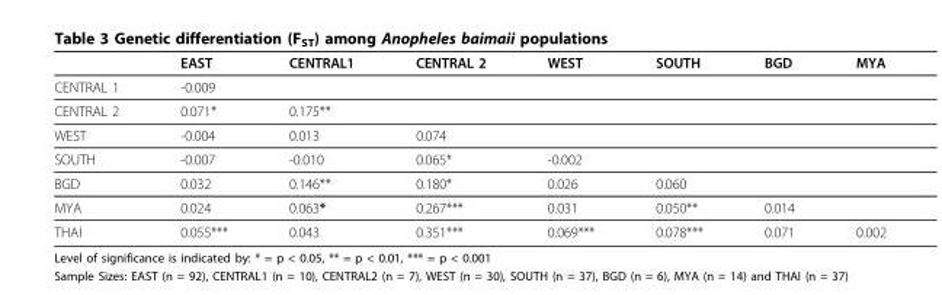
<table><thead><tr><td></td><td>EAST</td><td>CENTRAL1</td><td>CENTRAL 2</td><td>WEST</td><td>SOUTH</td><td>BGD</td><td>MYA</td></tr></thead><tbody><tr><td>CENTRAL 1</td><td>-0.009</td><td></td><td></td><td></td><td></td><td></td><td></td></tr><tr><td>CENTRAL 2</td><td>0.071*</td><td>0.175**</td><td></td><td></td><td></td><td></td><td></td></tr><tr><td>WEST</td><td>-0.004</td><td>0.013</td><td>0.074</td><td></td><td></td><td></td><td></td></tr><tr><td>SOUTH</td><td>-0.007</td><td>-0.010</td><td>0.065*</td><td>-0.002</td><td></td><td></td><td></td></tr><tr><td>BGD</td><td>0.032</td><td>0.146**</td><td>0.180*</td><td>0.026</td><td>0.060</td><td></td><td></td></tr><tr><td>MYA</td><td>0.024</td><td>0.063*</td><td>0.267***</td><td>0.031</td><td>0.050**</td><td>0.014</td><td></td></tr><tr><td>THAI</td><td>0.055***</td><td>0.043</td><td>0.351***</td><td>0.069***</td><td>0.078***</td><td>0.071</td><td>0.002</td></tr></tbody></table>